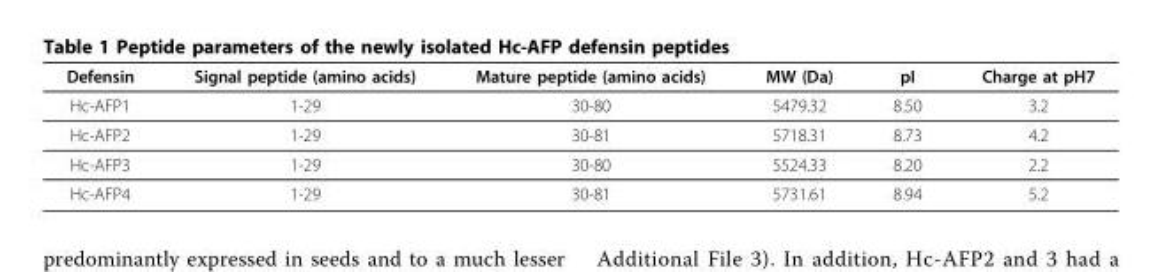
<table><thead><tr><td>Defensin</td><td>Signal peptide (amino acids)</td><td>Mature peptide (amino acids)</td><td>MW (Da)</td><td>pI</td><td>Charge at pH7</td></tr></thead><tbody><tr><td>Hc-AFP1</td><td>1-29</td><td>30-80</td><td>5479.32</td><td>8.50</td><td>3.2</td></tr><tr><td>Hc-AFP2</td><td>1-29</td><td>30-81</td><td>5718.31</td><td>8.73</td><td>4.2</td></tr><tr><td>Hc-AFP3</td><td>1-29</td><td>30-80</td><td>5524.33</td><td>8.20</td><td>2.2</td></tr><tr><td>Hc-AFP4</td><td>1-29</td><td>30-81</td><td>5731.61</td><td>8.94</td><td>5.2</td></tr></tbody></table>